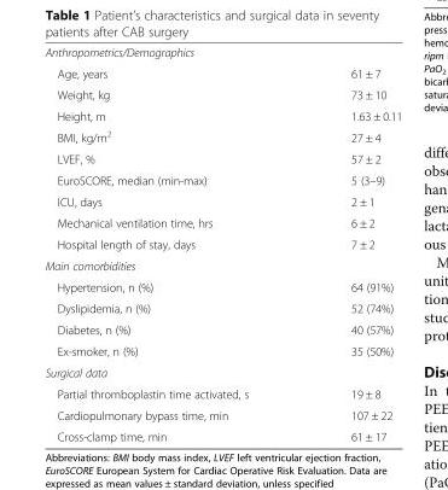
<table><tbody><tr><td colspan="2">Anthropometrics/Demographics</td></tr><tr><td>Age, years</td><td>61 ± 7</td></tr><tr><td>Weight, kg</td><td>73 ± 10</td></tr><tr><td>Height, m</td><td>1.63 ± 0.11</td></tr><tr><td>BMI, kg/m<sup>2</sup></td><td>27 ± 4</td></tr><tr><td>LVEF, %</td><td>57 ± 2</td></tr><tr><td>EuroSCORE, median (min-max)</td><td>5 (3–9)</td></tr><tr><td>ICU, days</td><td>2 ± 1</td></tr><tr><td>Mechanical ventilation time, hrs</td><td>6 ± 2</td></tr><tr><td>Hospital length of stay, days</td><td>7 ± 2</td></tr><tr><td colspan="2">Main comorbidities</td></tr><tr><td>Hypertension, n (%)</td><td>64 (91%)</td></tr><tr><td>Dyslipidemia, n (%)</td><td>52 (74%)</td></tr><tr><td>Diabetes, n (%)</td><td>40 (57%)</td></tr><tr><td>Ex-smoker, n (%)</td><td>35 (50%)</td></tr><tr><td colspan="2">Surgical data</td></tr><tr><td>Partial thromboplastin time activated, s</td><td>19 ± 8</td></tr><tr><td>Cardiopulmonary bypass time, min</td><td>107 ± 22</td></tr><tr><td>Cross-clamp time, min</td><td>61 ± 17</td></tr></tbody></table>